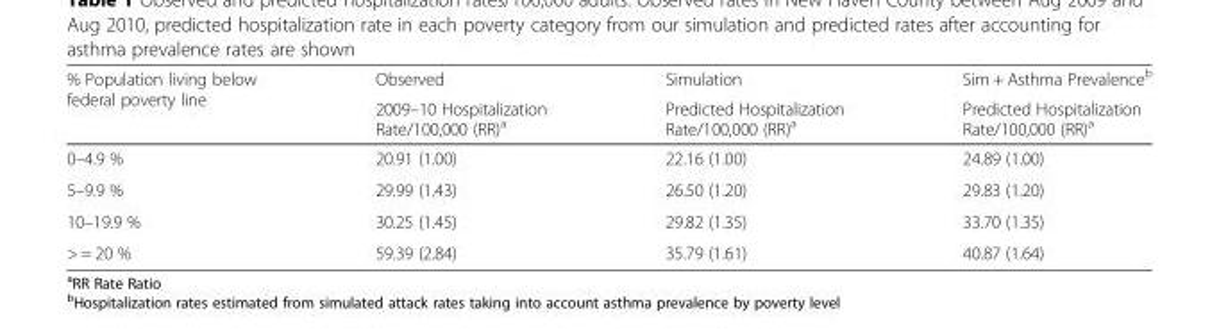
<table><thead><tr><td rowspan="2">% Population living below federal poverty line</td><td rowspan="2">Observed 2009–10 Hospitalization Rate/100,000 (RR)<sup>a</sup></td><td rowspan="2">Simulation Predicted Hospitalization Rate/100,000 (RR)<sup>a</sup></td><td rowspan="2">Sim + Asthma Prevalence<sup>b</sup> Predicted Hospitalization Rate/100,000 (RR)<sup>a</sup></td></tr><tr></tr></thead><tbody><tr><td>0–4.9 %</td><td>20.91 (1.00)</td><td>22.16 (1.00)</td><td>24.89 (1.00)</td></tr><tr><td>5–9.9 %</td><td>29.99 (1.43)</td><td>26.50 (1.20)</td><td>29.83 (1.20)</td></tr><tr><td>10–19.9 %</td><td>30.25 (1.45)</td><td>29.82 (1.35)</td><td>33.70 (1.35)</td></tr><tr><td>&gt; = 20 %</td><td>59.39 (2.84)</td><td>35.79 (1.61)</td><td>40.87 (1.64)</td></tr></tbody></table>